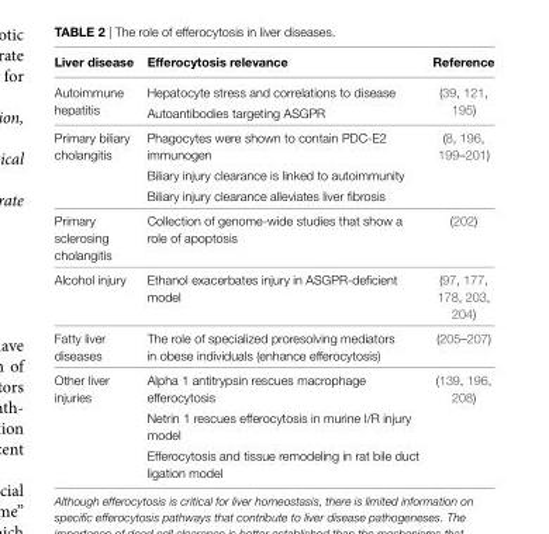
<table><thead><tr><td>Liver disease</td><td>efferocytosis relevance</td><td>Reference</td></tr></thead><tbody><tr><td rowspan="2">Autoimmune hepatitis</td><td>Hepatocyte stress and correlations to disease</td><td rowspan="2">(39, 121, 195)</td></tr><tr><td>Autoantibodies targeting ASGPR</td></tr><tr><td rowspan="3">Primary biliary cholangitis</td><td>Phagocytes were shown to contain PDC-E2 immunogen</td><td rowspan="3">(8, 196, 199–201)</td></tr><tr><td>Biliary injury clearance is linked to autoimmunity</td></tr><tr><td>Biliary injury clearance alleviates liver fibrosis</td></tr><tr><td>Primary sclerosing cholangitis</td><td>Collection of genome-wide studies that show a role of apoptosis</td><td>(202)</td></tr><tr><td>Alcohol injury</td><td>Ethanol exacerbates injury in ASGPR-deficient model</td><td>(97, 177, 178, 203, 204)</td></tr><tr><td>Fatty liver diseases</td><td>The role of specialized proresolving mediators in obese individuals (enhance efferocytosis)</td><td>(205–207)</td></tr><tr><td rowspan="3">Other liver injuries</td><td>Alpha 1 antitrypsin rescues macrophage efferocytosis</td><td rowspan="3">(139, 196, 208)</td></tr><tr><td>Netrin 1 rescues efferocytosis in murine I/R injury model</td></tr><tr><td>Efferocytosis and tissue remodeling in rat bile duct ligation model</td></tr></tbody></table>